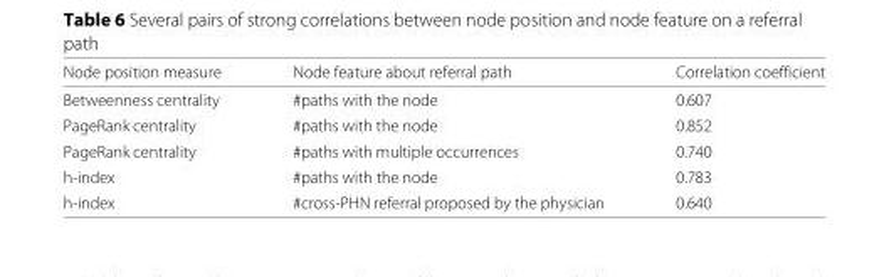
<table><thead><tr><td>Node position measure</td><td>Node feature about referral path</td><td>Correlation coefficient</td></tr></thead><tbody><tr><td>Betweenness centrality</td><td>#paths with the node</td><td>0.607</td></tr><tr><td>PageRank centrality</td><td>#paths with the node</td><td>0.852</td></tr><tr><td>PageRank centrality</td><td>#paths with multiple occurrences</td><td>0.740</td></tr><tr><td>h-index</td><td>#paths with the node</td><td>0.783</td></tr><tr><td>h-index</td><td>#cross-PHN referral proposed by the physician</td><td>0.640</td></tr></tbody></table>